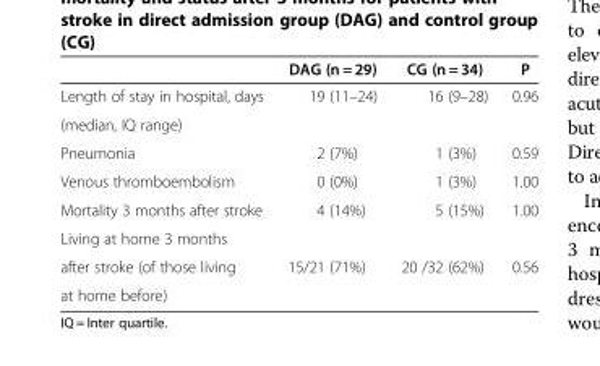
<table><thead><tr><td></td><td>DAG (n = 29)</td><td>CG (n = 34)</td><td>P</td></tr></thead><tbody><tr><td>Length of stay in hospital, days</td><td>19 (11–24)</td><td>16 (9–28)</td><td>0.96</td></tr><tr><td colspan="4">(median, IQ range)</td></tr><tr><td>Pneumonia</td><td>2 (7%)</td><td>1 (3%)</td><td>0.59</td></tr><tr><td>Venous thromboembolism</td><td>0 (0%)</td><td>1 (3%)</td><td>1.00</td></tr><tr><td>Mortality 3 months after stroke</td><td>4 (14%)</td><td>5 (15%)</td><td>1.00</td></tr><tr><td colspan="4">Living at home 3 months</td></tr><tr><td>after stroke (of those living</td><td>15/21 (71%)</td><td>20 /32 (62%)</td><td>0.56</td></tr><tr><td>at home before)</td><td></td><td></td><td></td></tr></tbody></table>